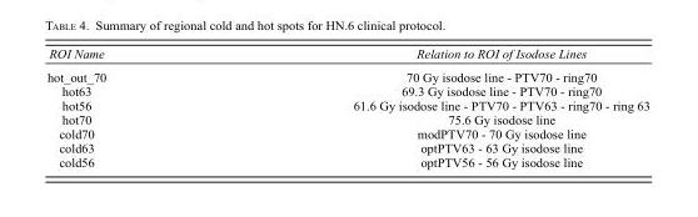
<table><thead><tr><td>ROI Name</td><td>Relation to ROI of Isodose Lines</td></tr></thead><tbody><tr><td>hot_out_70</td><td>70 Gy isodose line - PTV70 - ring70</td></tr><tr><td>hot63</td><td>69.3 Gy isodose line - PTV70 - ring70</td></tr><tr><td>hot56</td><td>61.6 Gy isodose line - PTV70 - PTV63 - ring70 - ring 63</td></tr><tr><td>hot70</td><td>75.6 Gy isodose line</td></tr><tr><td>cold70</td><td>modPTV70 - 70 Gy isodose line</td></tr><tr><td>cold63</td><td>optPTV63 - 63 Gy isodose line</td></tr><tr><td>cold56</td><td>optPTV56 - 56 Gy isodose line</td></tr></tbody></table>